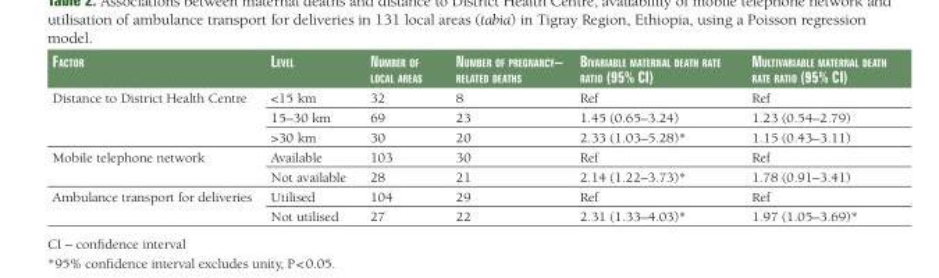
<table><thead><tr><td>Factor</td><td>level</td><td>nUmber oF local areas</td><td>nUmber oF pregnancy– related deatHs</td><td>bivariable maternal deatH rate ratio (95% ci)</td><td>mUltivariable maternal deatH rate ratio (95% ci)</td></tr></thead><tbody><tr><td rowspan="3">Distance to District Health Centre</td><td>&lt;15 km</td><td>32</td><td>8</td><td>Ref</td><td>Ref</td></tr><tr><td>15–30 km</td><td>69</td><td>23</td><td>1.45 (0.65–3.24)</td><td>1.23 (0.54–2.79)</td></tr><tr><td>&gt;30 km</td><td>30</td><td>20</td><td>2.33 (1.03–5.28)*</td><td>1.15 (0.43–3.11)</td></tr><tr><td rowspan="2">Mobile telephone network</td><td>Available</td><td>103</td><td>30</td><td>Ref</td><td>Ref</td></tr><tr><td>Not available</td><td>28</td><td>21</td><td>2.14 (1.22–3.73)*</td><td>1.78 (0.91–3.41)</td></tr><tr><td rowspan="2">Ambulance transport for deliveries</td><td>Utilised</td><td>104</td><td>29</td><td>Ref</td><td>Ref</td></tr><tr><td>Not utilised</td><td>27</td><td>22</td><td>2.31 (1.33–4.03)*</td><td>1.97 (1.05–3.69)*</td></tr></tbody></table>